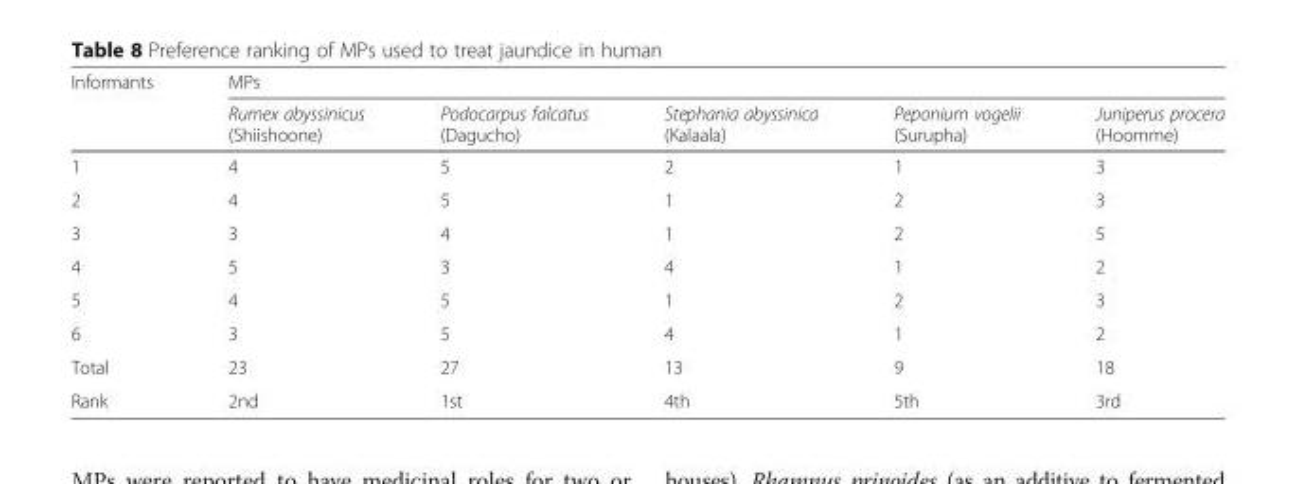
<table><thead><tr><td rowspan="2">Informants</td><td colspan="5">MPs</td></tr><tr><td>Rumex abyssinicus (Shiishoone)</td><td>Podocarpus falcatus (Dagucho)</td><td>Stephania abyssinica (Kalaala)</td><td>Peponium vogelii (Surupha)</td><td>Juniperus procera (Hoomme)</td></tr></thead><tbody><tr><td>1</td><td>4</td><td>5</td><td>2</td><td>1</td><td>3</td></tr><tr><td>2</td><td>4</td><td>5</td><td>1</td><td>2</td><td>3</td></tr><tr><td>3</td><td>3</td><td>4</td><td>1</td><td>2</td><td>5</td></tr><tr><td>4</td><td>5</td><td>3</td><td>4</td><td>1</td><td>2</td></tr><tr><td>5</td><td>4</td><td>5</td><td>1</td><td>2</td><td>3</td></tr><tr><td>6</td><td>3</td><td>5</td><td>4</td><td>1</td><td>2</td></tr><tr><td>Total</td><td>23</td><td>27</td><td>13</td><td>9</td><td>18</td></tr><tr><td>Rank</td><td>2nd</td><td>1st</td><td>4th</td><td>5th</td><td>3rd</td></tr></tbody></table>